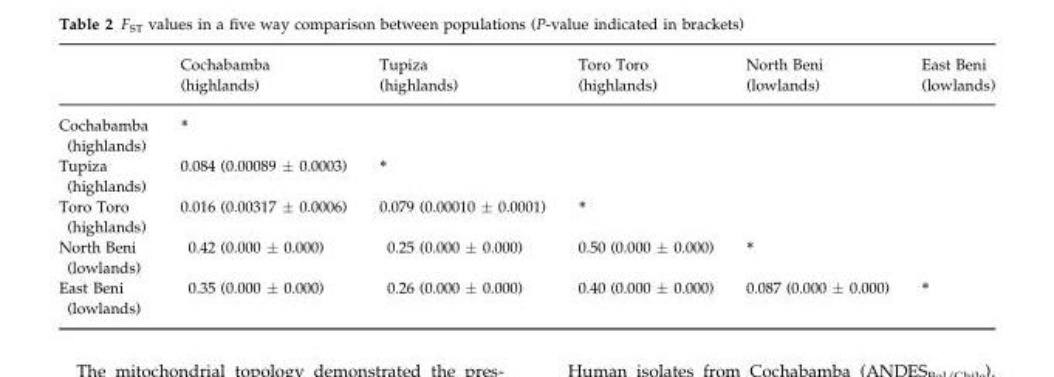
<table><thead><tr><td></td><td>Cochabamba (highlands)</td><td>Tupiza (highlands)</td><td>Toro Toro (highlands)</td><td>North Beni (lowlands)</td><td>East Beni (lowlands)</td></tr></thead><tbody><tr><td>Cochabamba (highlands)</td><td>*</td><td></td><td></td><td></td><td></td></tr><tr><td>Tupiza (highlands)</td><td>0.084 (0.00089 ± 0.0003)</td><td>*</td><td></td><td></td><td></td></tr><tr><td>Toro Toro (highlands)</td><td>0.016 (0.00317 ± 0.0006)</td><td>0.079 (0.00010 ± 0.0001)</td><td>*</td><td></td><td></td></tr><tr><td>North Beni (lowlands)</td><td>0.42 (0.000 ± 0.000)</td><td>0.25 (0.000 ± 0.000)</td><td>0.50 (0.000 ± 0.000)</td><td>*</td><td></td></tr><tr><td>East Beni (lowlands)</td><td>0.35 (0.000 ± 0.000)</td><td>0.26 (0.000 ± 0.000)</td><td>0.40 (0.000 ± 0.000)</td><td>0.087 (0.000 ± 0.000)</td><td>*</td></tr></tbody></table>